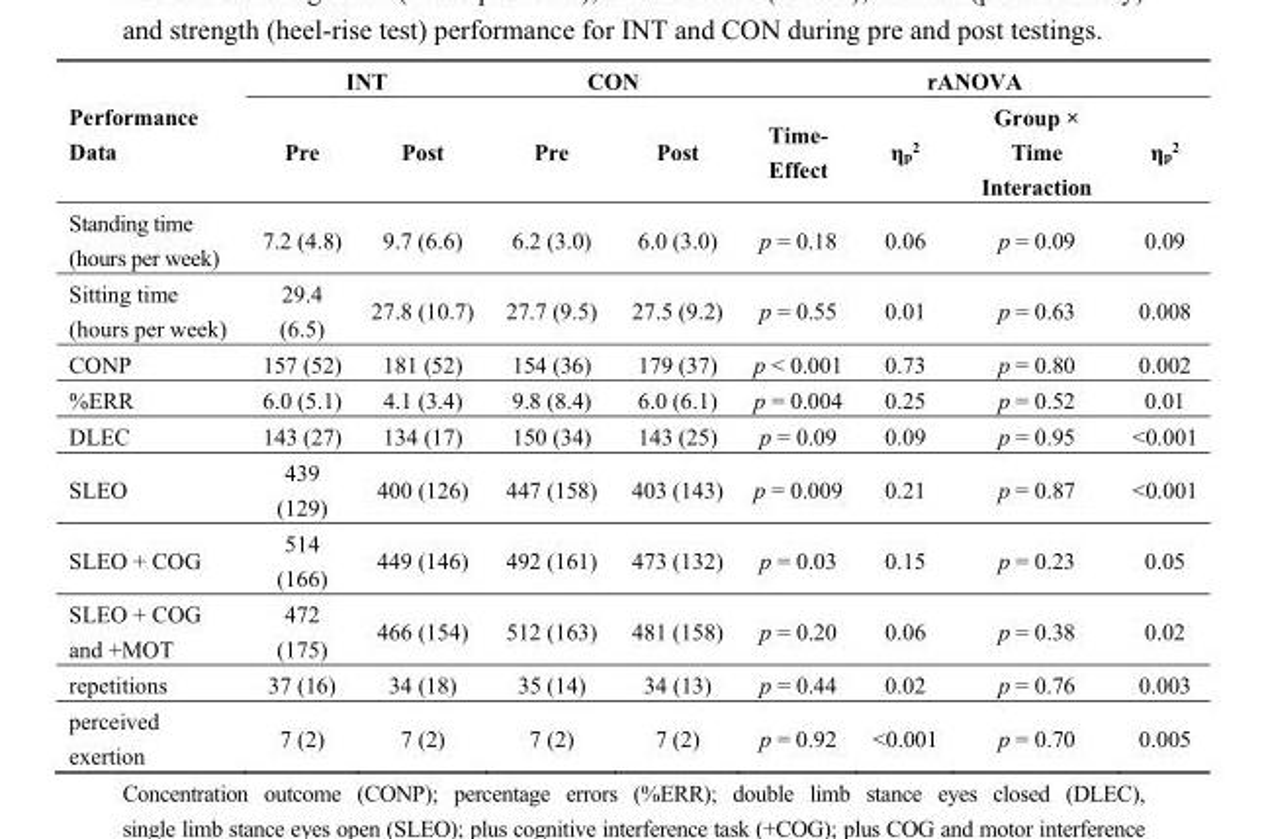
<table><thead><tr><td rowspan="2">Performance Data</td><td colspan="2">INT</td><td colspan="2">CON</td><td colspan="4">rANOVA</td></tr><tr><td>Pre</td><td>Post</td><td>Pre</td><td>Post</td><td>Time- Effect</td><td>η<sub>p</sub><sup>2</sup></td><td>Group × Time Interaction</td><td>η<sub>p</sub><sup>2</sup></td></tr></thead><tbody><tr><td>Standing time (hours per week)</td><td>7.2 (4.8)</td><td>9.7 (6.6)</td><td>6.2 (3.0)</td><td>6.0 (3.0)</td><td>p = 0.18</td><td>0.06</td><td>p = 0.09</td><td>0.09</td></tr><tr><td>Sitting time (hours per week)</td><td>29.4 (6.5)</td><td>27.8 (10.7)</td><td>27.7 (9.5)</td><td>27.5 (9.2)</td><td>p = 0.55</td><td>0.01</td><td>p = 0.63</td><td>0.008</td></tr><tr><td>CONP</td><td>157 (52)</td><td>181 (52)</td><td>154 (36)</td><td>179 (37)</td><td>p &lt; 0.001</td><td>0.73</td><td>p = 0.80</td><td>0.002</td></tr><tr><td>%ERR</td><td>6.0 (5.1)</td><td>4.1 (3.4)</td><td>9.8 (8.4)</td><td>6.0 (6.1)</td><td>p = 0.004</td><td>0.25</td><td>p = 0.52</td><td>0.01</td></tr><tr><td>DLEC</td><td>143 (27)</td><td>134 (17)</td><td>150 (34)</td><td>143 (25)</td><td>p = 0.09</td><td>0.09</td><td>p = 0.95</td><td>&lt;0.001</td></tr><tr><td>SLEO</td><td>439 (129)</td><td>400 (126)</td><td>447 (158)</td><td>403 (143)</td><td>p = 0.009</td><td>0.21</td><td>p = 0.87</td><td>&lt;0.001</td></tr><tr><td>SLEO + COG</td><td>514 (166)</td><td>449 (146)</td><td>492 (161)</td><td>473 (132)</td><td>p = 0.03</td><td>0.15</td><td>p = 0.23</td><td>0.05</td></tr><tr><td>SLEO + COG and +MOT</td><td>472 (175)</td><td>466 (154)</td><td>512 (163)</td><td>481 (158)</td><td>p = 0.20</td><td>0.06</td><td>p = 0.38</td><td>0.02</td></tr><tr><td>repetitions</td><td>37 (16)</td><td>34 (18)</td><td>35 (14)</td><td>34 (13)</td><td>p = 0.44</td><td>0.02</td><td>p = 0.76</td><td>0.003</td></tr><tr><td>perceived exertion</td><td>7 (2)</td><td>7 (2)</td><td>7 (2)</td><td>7 (2)</td><td>p = 0.92</td><td>&lt;0.001</td><td>p = 0.70</td><td>0.005</td></tr></tbody></table>